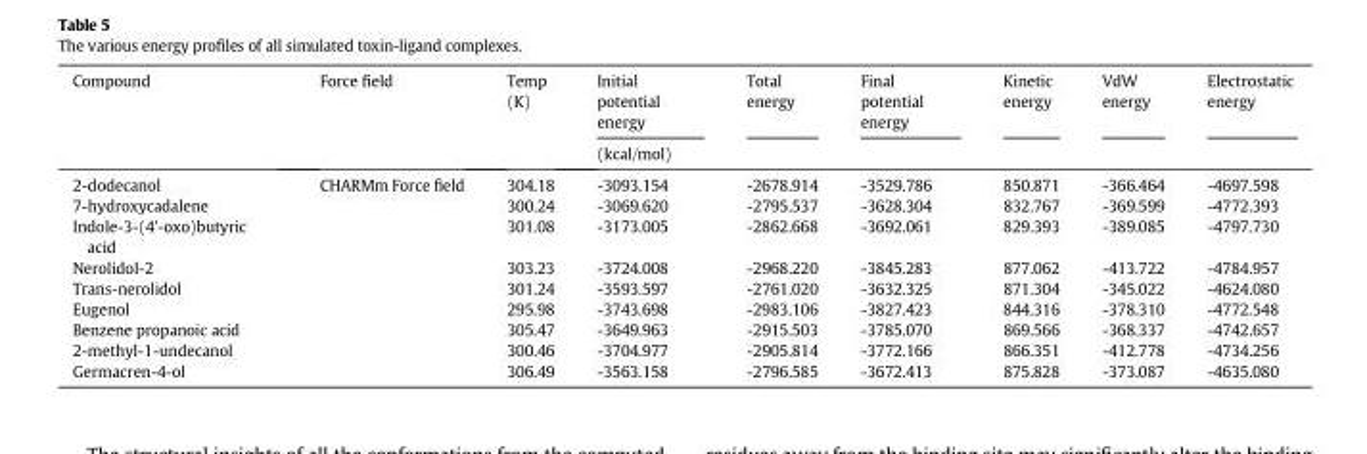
<table><thead><tr><td rowspan="2">Compound</td><td rowspan="2">Force field</td><td rowspan="2">Temp (K)</td><td>Initial potential energy</td><td>Total energy</td><td>Final potential energy</td><td>Kinetic energy</td><td>VdW energy</td><td>Electrostatic energy</td></tr><tr><td colspan="6">(kcal/mol)</td></tr></thead><tbody><tr><td>2-dodecanol</td><td rowspan="9">CHARMm Force field</td><td>304.18</td><td>-3093.154</td><td>-2678.914</td><td>-3529.786</td><td>850.871</td><td>-366.464</td><td>-4697.598</td></tr><tr><td>7-hydroxycadalene</td><td>300.24</td><td>-3069.620</td><td>-2795.537</td><td>-3628.304</td><td>832.767</td><td>-369.599</td><td>-4772.393</td></tr><tr><td>Indole-3-(4&#x27;-oxo)butyric acid</td><td>301.08</td><td>-3173.005</td><td>-2862.668</td><td>-3692.061</td><td>829.393</td><td>-389.085</td><td>-4797.730</td></tr><tr><td>Nerolidol-2</td><td>303.23</td><td>-3724.008</td><td>-2968.220</td><td>-3845.283</td><td>877.062</td><td>-413.722</td><td>-4784.957</td></tr><tr><td>Trans-nerolidol</td><td>301.24</td><td>-3593.597</td><td>-2761.020</td><td>-3632.325</td><td>871.304</td><td>-345.022</td><td>-4624.080</td></tr><tr><td>Eugenol</td><td>295.98</td><td>-3743.698</td><td>-2983.106</td><td>-3827.423</td><td>844.316</td><td>-378.310</td><td>-4772.548</td></tr><tr><td>Benzene propanoic acid</td><td>305.47</td><td>-3649.963</td><td>-2915.503</td><td>-3785.070</td><td>869.566</td><td>-368.337</td><td>-4742.657</td></tr><tr><td>2-methyl-1-undecanol</td><td>300.46</td><td>-3704.977</td><td>-2905.814</td><td>-3772.166</td><td>866.351</td><td>-412.778</td><td>-4734.256</td></tr><tr><td>Germacren-4-ol</td><td>306.49</td><td>-3563.158</td><td>-2796.585</td><td>-3672.413</td><td>875.828</td><td>-373.087</td><td>-4635.080</td></tr></tbody></table>